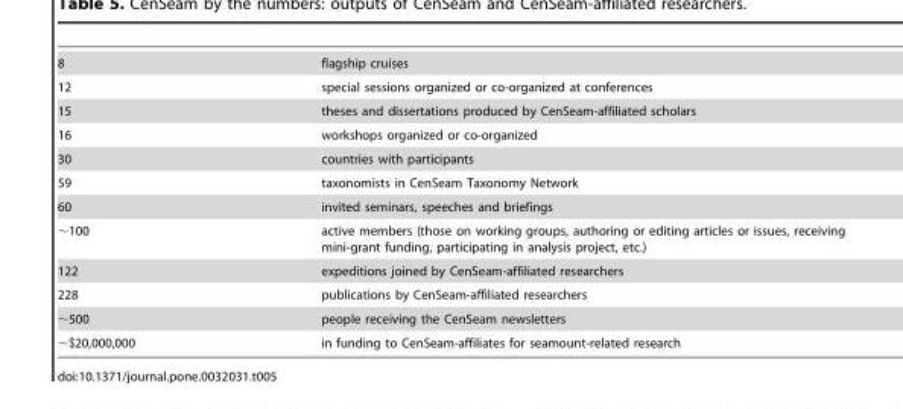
<table><tbody><tr><td>8</td><td>flagship cruises</td></tr><tr><td>12</td><td>special sessions organized or co-organized at conferences</td></tr><tr><td>15</td><td>theses and dissertations produced by CenSeam-affiliated scholars</td></tr><tr><td>16</td><td>workshops organized or co-organized</td></tr><tr><td>30</td><td>countries with participants</td></tr><tr><td>59</td><td>taxonomists in CenSeam Taxonomy Network</td></tr><tr><td>60</td><td>invited seminars, speeches and briefings</td></tr><tr><td>∼100</td><td>active members (those on working groups, authoring or editing articles or issues, receiving mini-grant funding, participating in analysis project, etc.)</td></tr><tr><td>122</td><td>expeditions joined by CenSeam-affiliated researchers</td></tr><tr><td>228</td><td>publications by CenSeam-affiliated researchers</td></tr><tr><td>∼500</td><td>people receiving the CenSeam newsletters</td></tr><tr><td>∼$20,000,000</td><td>in funding to CenSeam-affiliates for seamount-related research</td></tr></tbody></table>